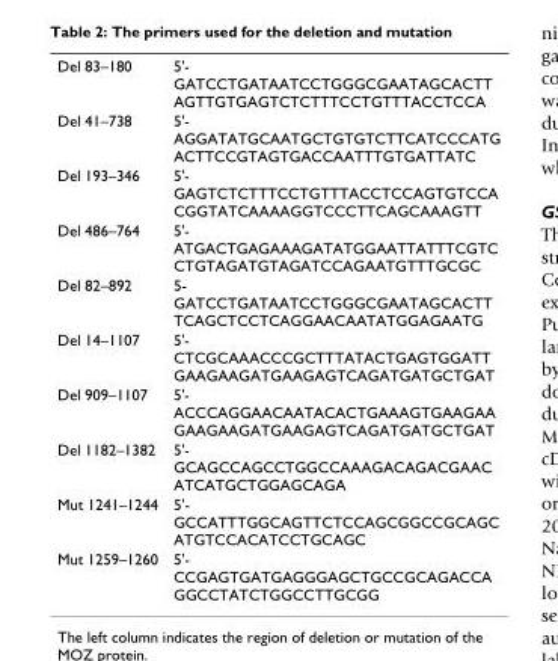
<table><tbody><tr><td>Del 83–180</td><td>5&#x27;- GATCCTGATAATCCTGGGCGAATAGCACTT AGTTGTGAGTCTCTTTCCTGTTTACCTCCA</td></tr><tr><td>Del 41–738</td><td>5&#x27;- AGGATATGCAATGCTGTGTCTTCATCCCATG ACTTCCGTAGTGACCAATTTGTGATTATC</td></tr><tr><td>Del 193–346</td><td>5&#x27;- GAGTCTCTTTCCTGTTTACCTCCAGTGTCCA CGGTATCAAAAGGTCCCTTCAGCAAAGTT</td></tr><tr><td>Del 486–764</td><td>5&#x27;- ATGACTGAGAAAGATATGGAATTATTTCGTC CTGTAGATGTAGATCCAGAATGTTTGCGC</td></tr><tr><td>Del 82–892</td><td>5- GATCCTGATAATCCTGGGCGAATAGCACTT TCAGCTCCTCAGGAACAATATGGAGAATG</td></tr><tr><td>Del 14–1107</td><td>5&#x27;- CTCGCAAACCCGCTTTATACTGAGTGGATT GAAGAAGATGAAGAGTCAGATGATGCTGAT</td></tr><tr><td>Del 909–1107</td><td>5&#x27;- ACCCAGGAACAATACACTGAAAGTGAAGAA GAAGAAGATGAAGAGTCAGATGATGCTGAT</td></tr><tr><td>Del 1182–1382</td><td>5&#x27;- GCAGCCAGCCTGGCCAAAGACAGACGAAC ATCATGCTGGAGCAGA</td></tr><tr><td>Mut 1241–1244</td><td>5&#x27;- GCCATTTGGCAGTTCTCCAGCGGCCGCAGC ATGTCCACATCCTGCAGC</td></tr><tr><td>Mut 1259–1260</td><td>5&#x27;- CCGAGTGATGAGGGAGCTGCCGCAGACCA GGCCTATCTGGCCTTGCGG</td></tr></tbody></table>